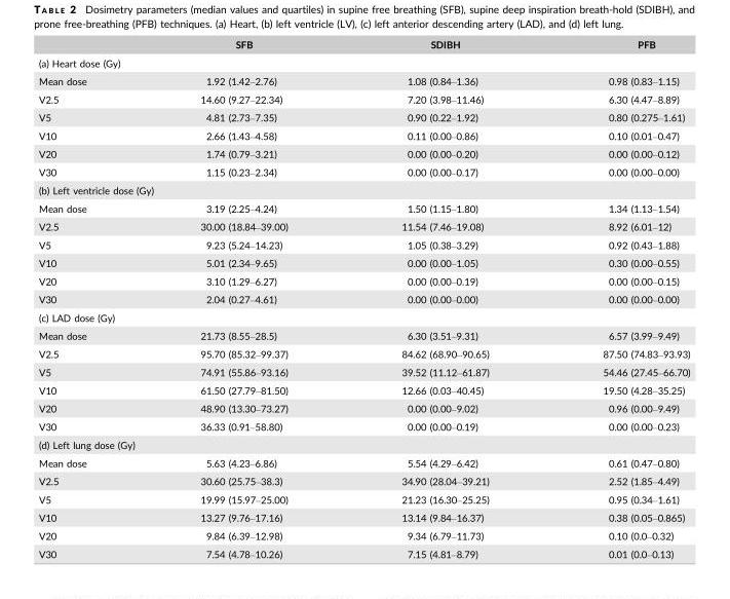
<table><thead><tr><td></td><td>SFB</td><td>SDIBH</td><td>PFB</td></tr></thead><tbody><tr><td colspan="4">(a) Heart dose (Gy)</td></tr><tr><td>Mean dose</td><td>1.92 (1.42–2.76)</td><td>1.08 (0.84–1.36)</td><td>0.98 (0.83–1.15)</td></tr><tr><td>V2.5</td><td>14.60 (9.27–22.34)</td><td>7.20 (3.98–11.46)</td><td>6.30 (4.47–8.89)</td></tr><tr><td>V5</td><td>4.81 (2.73–7.35)</td><td>0.90 (0.22–1.92)</td><td>0.80 (0.275–1.61)</td></tr><tr><td>V10</td><td>2.66 (1.43–4.58)</td><td>0.11 (0.00–0.86)</td><td>0.10 (0.01–0.47)</td></tr><tr><td>V20</td><td>1.74 (0.79–3.21)</td><td>0.00 (0.00–0.20)</td><td>0.00 (0.00–0.12)</td></tr><tr><td>V30</td><td>1.15 (0.23–2.34)</td><td>0.00 (0.00–0.17)</td><td>0.00 (0.00–0.00)</td></tr><tr><td colspan="4">(b) Left ventricle dose (Gy)</td></tr><tr><td>Mean dose</td><td>3.19 (2.25–4.24)</td><td>1.50 (1.15–1.80)</td><td>1.34 (1.13–1.54)</td></tr><tr><td>V2.5</td><td>30.00 (18.84–39.00)</td><td>11.54 (7.46–19.08)</td><td>8.92 (6.01–12)</td></tr><tr><td>V5</td><td>9.23 (5.24–14.23)</td><td>1.05 (0.38–3.29)</td><td>0.92 (0.43–1.88)</td></tr><tr><td>V10</td><td>5.01 (2.34–9.65)</td><td>0.00 (0.00–1.05)</td><td>0.30 (0.00–0.55)</td></tr><tr><td>V20</td><td>3.10 (1.29–6.27)</td><td>0.00 (0.00–0.19)</td><td>0.00 (0.00–0.15)</td></tr><tr><td>V30</td><td>2.04 (0.27–4.61)</td><td>0.00 (0.00–0.00)</td><td>0.00 (0.00–0.00)</td></tr><tr><td colspan="4">(c) LAD dose (Gy)</td></tr><tr><td>Mean dose</td><td>21.73 (8.55–28.5)</td><td>6.30 (3.51–9.31)</td><td>6.57 (3.99–9.49)</td></tr><tr><td>V2.5</td><td>95.70 (85.32–99.37)</td><td>84.62 (68.90–90.65)</td><td>87.50 (74.83–93.93)</td></tr><tr><td>V5</td><td>74.91 (55.86–93.16)</td><td>39.52 (11.12–61.87)</td><td>54.46 (27.45–66.70)</td></tr><tr><td>V10</td><td>61.50 (27.79–81.50)</td><td>12.66 (0.03–40.45)</td><td>19.50 (4.28–35.25)</td></tr><tr><td>V20</td><td>48.90 (13.30–73.27)</td><td>0.00 (0.00–9.02)</td><td>0.96 (0.00–9.49)</td></tr><tr><td>V30</td><td>36.33 (0.91–58.80)</td><td>0.00 (0.00–0.19)</td><td>0.00 (0.00–0.23)</td></tr><tr><td colspan="4">(d) Left lung dose (Gy)</td></tr><tr><td>Mean dose</td><td>5.63 (4.23–6.86)</td><td>5.54 (4.29–6.42)</td><td>0.61 (0.47–0.80)</td></tr><tr><td>V2.5</td><td>30.60 (25.75–38.3)</td><td>34.90 (28.04–39.21)</td><td>2.52 (1.85–4.49)</td></tr><tr><td>V5</td><td>19.99 (15.97–25.00)</td><td>21.23 (16.30–25.25)</td><td>0.95 (0.34–1.61)</td></tr><tr><td>V10</td><td>13.27 (9.76–17.16)</td><td>13.14 (9.84–16.37)</td><td>0.38 (0.05–0.865)</td></tr><tr><td>V20</td><td>9.84 (6.39–12.98)</td><td>9.34 (6.79–11.73)</td><td>0.10 (0.0–0.32)</td></tr><tr><td>V30</td><td>7.54 (4.78–10.26)</td><td>7.15 (4.81–8.79)</td><td>0.01 (0.0–0.13)</td></tr></tbody></table>